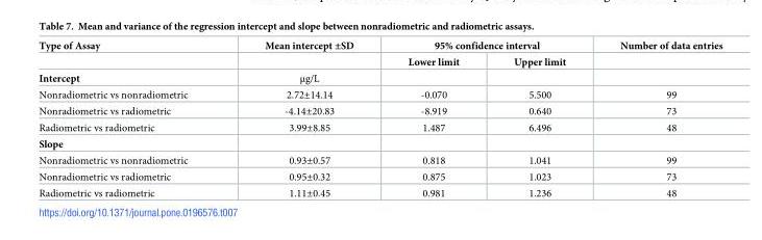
<table><thead><tr><td rowspan="2">Type of Assay</td><td rowspan="2">Mean intercept ±SD</td><td colspan="2">95% confidence interval</td><td rowspan="2">Number of data entries</td></tr><tr><td>Lower limit</td><td>Upper limit</td></tr></thead><tbody><tr><td>Intercept</td><td>μg/L</td><td></td><td></td><td></td></tr><tr><td>Nonradiometric vs nonradiometric</td><td>2.72±14.14</td><td>-0.070</td><td>5.500</td><td>99</td></tr><tr><td>Nonradiometric vs radiometric</td><td>-4.14±20.83</td><td>-8.919</td><td>0.640</td><td>73</td></tr><tr><td>Radiometric vs radiometric</td><td>3.99±8.85</td><td>1.487</td><td>6.496</td><td>48</td></tr><tr><td colspan="5">Slope</td></tr><tr><td>Nonradiometric vs nonradiometric</td><td>0.93±0.57</td><td>0.818</td><td>1.041</td><td>99</td></tr><tr><td>Nonradiometric vs radiometric</td><td>0.95±0.32</td><td>0.875</td><td>1.023</td><td>73</td></tr><tr><td>Radiometric vs radiometric</td><td>1.11±0.45</td><td>0.981</td><td>1.236</td><td>48</td></tr></tbody></table>